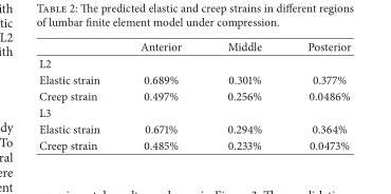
<table><thead><tr><td></td><td>Anterior</td><td>Middle</td><td>Posterior</td></tr></thead><tbody><tr><td colspan="4">L2</td></tr><tr><td>Elastic strain</td><td>0.689%</td><td>0.301%</td><td>0.377%</td></tr><tr><td>Creep strain</td><td>0.497%</td><td>0.256%</td><td>0.0486%</td></tr><tr><td colspan="4">L3</td></tr><tr><td>Elastic strain</td><td>0.671%</td><td>0.294%</td><td>0.364%</td></tr><tr><td>Creep strain</td><td>0.485%</td><td>0.233%</td><td>0.0473%</td></tr></tbody></table>